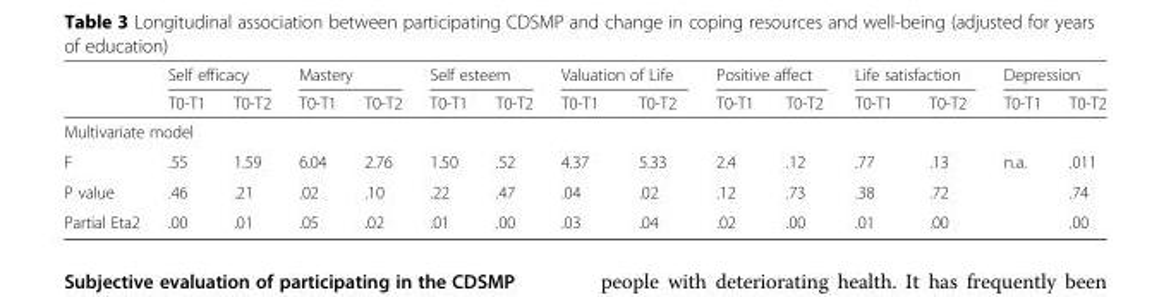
<table><thead><tr><td rowspan="2"></td><td colspan="2">Self efficacy</td><td colspan="2">Mastery</td><td colspan="2">Self esteem</td><td colspan="2">Valuation of Life</td><td colspan="2">Positive affect</td><td colspan="2">Life satisfaction</td><td colspan="2">Depression</td></tr><tr><td>T0-T1</td><td>T0-T2</td><td>T0-T1</td><td>T0-T2</td><td>T0-T1</td><td>T0-T2</td><td>T0-T1</td><td>T0-T2</td><td>T0-T1</td><td>T0-T2</td><td>T0-T1</td><td>T0-T2</td><td>T0-T1</td><td>T0-T2</td></tr></thead><tbody><tr><td colspan="15">Multivariate model</td></tr><tr><td>F</td><td>.55</td><td>1.59</td><td>6.04</td><td>2.76</td><td>1.50</td><td>.52</td><td>4.37</td><td>5.33</td><td>2.4</td><td>.12</td><td>.77</td><td>.13</td><td>n.a.</td><td>.011</td></tr><tr><td>P value</td><td>.46</td><td>.21</td><td>.02</td><td>.10</td><td>.22</td><td>.47</td><td>.04</td><td>.02</td><td>.12</td><td>.73</td><td>.38</td><td>.72</td><td></td><td>.74</td></tr><tr><td>Partial Eta2</td><td>.00</td><td>.01</td><td>.05</td><td>.02</td><td>.01</td><td>.00</td><td>.03</td><td>.04</td><td>.02</td><td>.00</td><td>.01</td><td>.00</td><td></td><td>.00</td></tr></tbody></table>